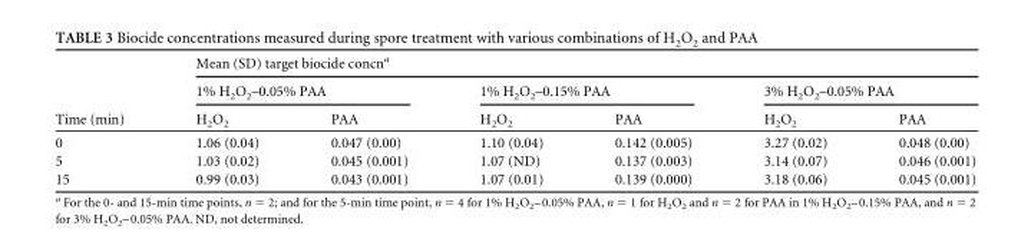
<table><thead><tr><td rowspan="3">Time (min)</td><td colspan="6">Mean (SD) target biocide concn<sup>a</sup></td></tr><tr><td colspan="2">1% H<sub>2</sub>O<sub>2</sub>–0.05% PAA</td><td colspan="2">1% H<sub>2</sub>O<sub>2</sub>–0.15% PAA</td><td colspan="2">3% H<sub>2</sub>O<sub>2</sub>–0.05% PAA</td></tr><tr><td>H<sub>2</sub>O<sub>2</sub></td><td>PAA</td><td>H<sub>2</sub>O<sub>2</sub></td><td>PAA</td><td>H<sub>2</sub>O<sub>2</sub></td><td>PAA</td></tr></thead><tbody><tr><td>0</td><td>1.06 (0.04)</td><td>0.047 (0.00)</td><td>1.10 (0.04)</td><td>0.142 (0.005)</td><td>3.27 (0.02)</td><td>0.048 (0.00)</td></tr><tr><td>5</td><td>1.03 (0.02)</td><td>0.045 (0.001)</td><td>1.07 (ND)</td><td>0.137 (0.003)</td><td>3.14 (0.07)</td><td>0.046 (0.001)</td></tr><tr><td>15</td><td>0.99 (0.03)</td><td>0.043 (0.001)</td><td>1.07 (0.01)</td><td>0.139 (0.000)</td><td>3.18 (0.06)</td><td>0.045 (0.001)</td></tr></tbody></table>